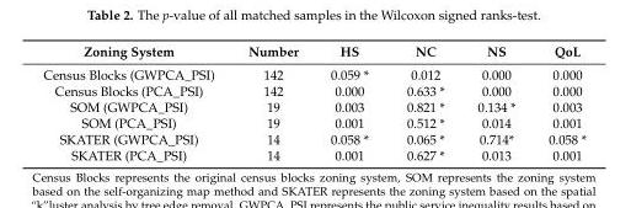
<table><thead><tr><td>Zoning System</td><td>Number</td><td>HS</td><td>NC</td><td>NS</td><td>QoL</td></tr></thead><tbody><tr><td>Census Blocks (GWPCA_PSI)</td><td>142</td><td>0.059 *</td><td>0.012</td><td>0.000</td><td>0.000</td></tr><tr><td>Census Blocks (PCA_PSI)</td><td>142</td><td>0.000</td><td>0.633 *</td><td>0.000</td><td>0.000</td></tr><tr><td>SOM (GWPCA_PSI)</td><td>19</td><td>0.003</td><td>0.821 *</td><td>0.134 *</td><td>0.003</td></tr><tr><td>SOM (PCA_PSI)</td><td>19</td><td>0.001</td><td>0.512 *</td><td>0.014</td><td>0.001</td></tr><tr><td>SKATER (GWPCA_PSI)</td><td>14</td><td>0.058 *</td><td>0.065 *</td><td>0.714*</td><td>0.058 *</td></tr><tr><td>SKATER (PCA_PSI)</td><td>14</td><td>0.001</td><td>0.627 *</td><td>0.013</td><td>0.001</td></tr></tbody></table>